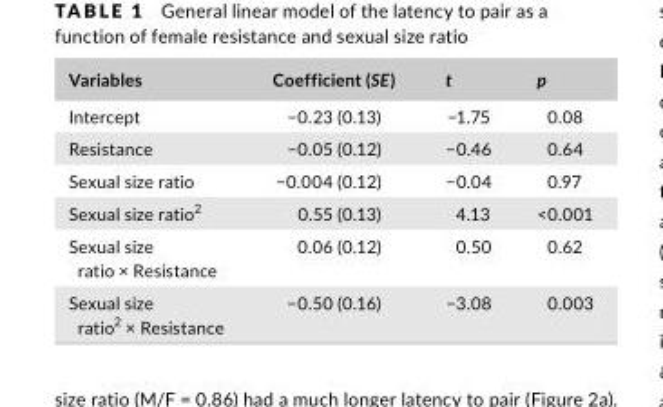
<table><thead><tr><td>Variables</td><td>Coefficient (SE)</td><td>t</td><td>p</td></tr></thead><tbody><tr><td>Intercept</td><td>−0.23 (0.13)</td><td>−1.75</td><td>0.08</td></tr><tr><td>Resistance</td><td>−0.05 (0.12)</td><td>−0.46</td><td>0.64</td></tr><tr><td>Sexual size ratio</td><td>−0.004 (0.12)</td><td>−0.04</td><td>0.97</td></tr><tr><td>Sexual size ratio<sup>2</sup></td><td>0.55 (0.13)</td><td>4.13</td><td>&lt;0.001</td></tr><tr><td>Sexual size ratio × Resistance</td><td>0.06 (0.12)</td><td>0.50</td><td>0.62</td></tr><tr><td>Sexual size ratio<sup>2</sup> × Resistance</td><td>−0.50 (0.16)</td><td>−3.08</td><td>0.003</td></tr></tbody></table>